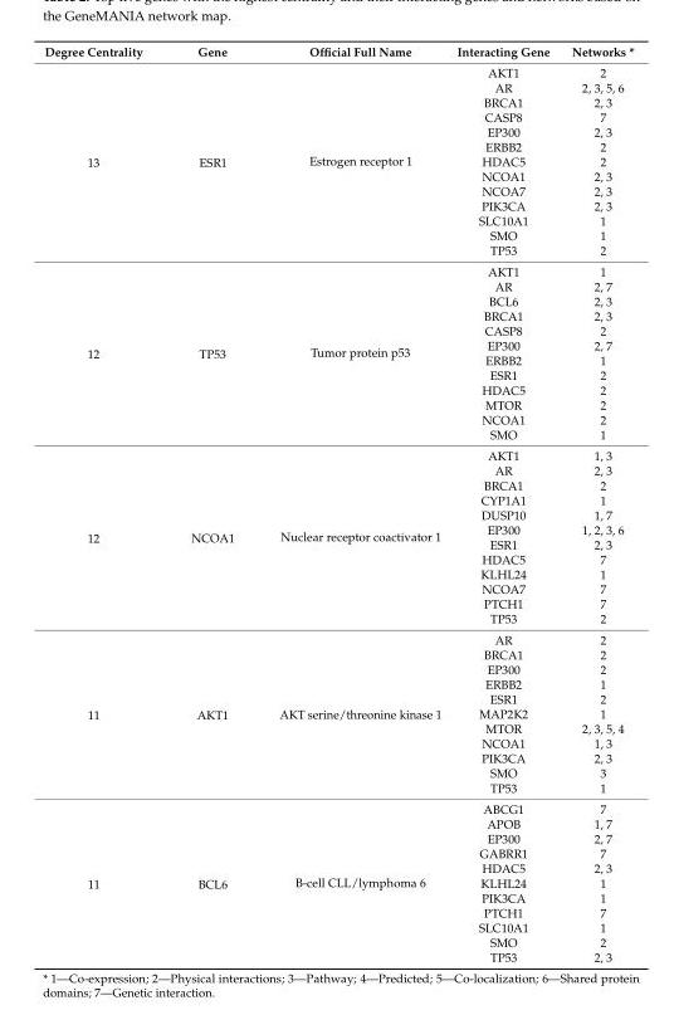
<table><thead><tr><td>Degree Centrality</td><td>Gene</td><td>Official Full Name</td><td>Interacting Gene</td><td>Networks *</td></tr></thead><tbody><tr><td rowspan="13">13</td><td rowspan="13">ESR1</td><td rowspan="13">Estrogen receptor 1</td><td>AKT1</td><td>2</td></tr><tr><td>AR</td><td>2, 3, 5, 6</td></tr><tr><td>BRCA1</td><td>2, 3</td></tr><tr><td>CASP8</td><td>7</td></tr><tr><td>EP300</td><td>2, 3</td></tr><tr><td>ERBB2</td><td>2</td></tr><tr><td>HDAC5</td><td>2</td></tr><tr><td>NCOA1</td><td>2, 3</td></tr><tr><td>NCOA7</td><td>2, 3</td></tr><tr><td>PIK3CA</td><td>2, 3</td></tr><tr><td>SLC10A1</td><td>1</td></tr><tr><td>SMO</td><td>1</td></tr><tr><td>TP53</td><td>2</td></tr><tr><td rowspan="12">12</td><td rowspan="12">TP53</td><td rowspan="12">Tumor protein p53</td><td>AKT1</td><td>1</td></tr><tr><td>AR</td><td>2, 7</td></tr><tr><td>BCL6</td><td>2, 3</td></tr><tr><td>BRCA1</td><td>2, 3</td></tr><tr><td>CASP8</td><td>2</td></tr><tr><td>EP300</td><td>2, 7</td></tr><tr><td>ERBB2</td><td>1</td></tr><tr><td>ESR1</td><td>2</td></tr><tr><td>HDAC5</td><td>2</td></tr><tr><td>MTOR</td><td>2</td></tr><tr><td>NCOA1</td><td>2</td></tr><tr><td>SMO</td><td>1</td></tr><tr><td rowspan="12">12</td><td rowspan="12">NCOA1</td><td rowspan="12">Nuclear receptor coactivator 1</td><td>AKT1</td><td>1, 3</td></tr><tr><td>AR</td><td>2, 3</td></tr><tr><td>BRCA1</td><td>2</td></tr><tr><td>CYP1A1</td><td>1</td></tr><tr><td>DUSP10</td><td>1, 7</td></tr><tr><td>EP300</td><td>1, 2, 3, 6</td></tr><tr><td>ESR1</td><td>2, 3</td></tr><tr><td>HDAC5</td><td>7</td></tr><tr><td>KLHL24</td><td>1</td></tr><tr><td>NCOA7</td><td>7</td></tr><tr><td>PTCH1</td><td>7</td></tr><tr><td>TP53</td><td>2</td></tr><tr><td rowspan="11">11</td><td rowspan="11">AKT1</td><td rowspan="11">AKT serine/threonine kinase 1</td><td>AR</td><td>2</td></tr><tr><td>BRCA1</td><td>2</td></tr><tr><td>EP300</td><td>2</td></tr><tr><td>ERBB2</td><td>1</td></tr><tr><td>ESR1</td><td>2</td></tr><tr><td>MAP2K2</td><td>1</td></tr><tr><td>MTOR</td><td>2, 3, 5, 4</td></tr><tr><td>NCOA1</td><td>1, 3</td></tr><tr><td>PIK3CA</td><td>2, 3</td></tr><tr><td>SMO</td><td>3</td></tr><tr><td>TP53</td><td>1</td></tr><tr><td rowspan="11">11</td><td rowspan="11">BCL6</td><td rowspan="11">B-cell CLL/lymphoma 6</td><td>ABCG1</td><td>7</td></tr><tr><td>APOB</td><td>1, 7</td></tr><tr><td>EP300</td><td>2, 7</td></tr><tr><td>GABRR1</td><td>7</td></tr><tr><td>HDAC5</td><td>2, 3</td></tr><tr><td>KLHL24</td><td>1</td></tr><tr><td>PIK3CA</td><td>1</td></tr><tr><td>PTCH1</td><td>7</td></tr><tr><td>SLC10A1</td><td>1</td></tr><tr><td>SMO</td><td>2</td></tr><tr><td>TP53</td><td>2, 3</td></tr></tbody></table>